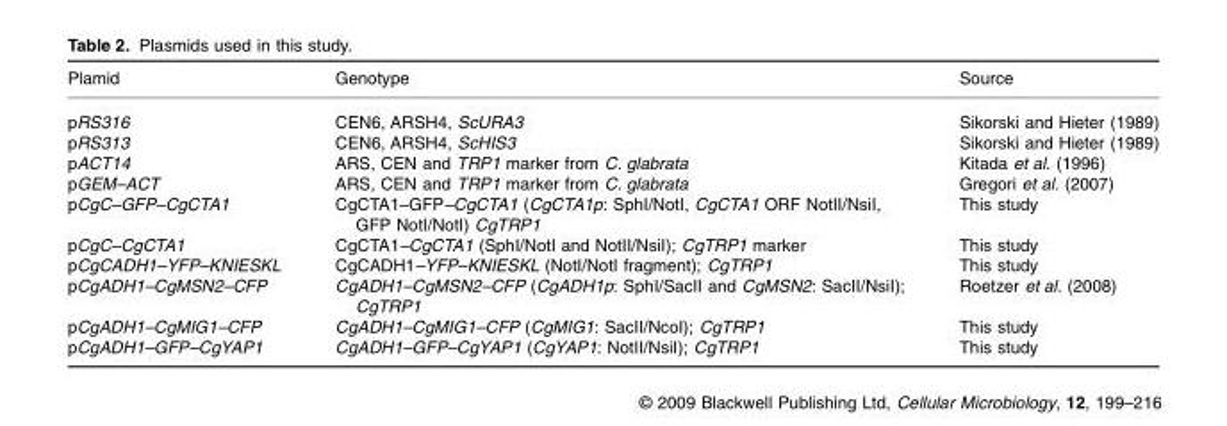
<table><thead><tr><td>Plamid</td><td>Genotype</td><td>Source</td></tr></thead><tbody><tr><td>pRS316</td><td>CEN6, ARSH4, ScURA3</td><td>Sikorski and Hieter (1989)</td></tr><tr><td>pRS313</td><td>CEN6, ARSH4, ScHIS3</td><td>Sikorski and Hieter (1989)</td></tr><tr><td>pACT14</td><td>ARS, CEN and TRP1 marker from C. glabrata</td><td>Kitada et al. (1996)</td></tr><tr><td>pGEM–ACT</td><td>ARS, CEN and TRP1 marker from C. glabrata</td><td>Gregori et al. (2007)</td></tr><tr><td>pCgC–GFP–CgCTA1</td><td>CgCTA1–GFP–CgCTA1 (CgCTA1p: SphI/NotI, CgCTA1 ORF NotII/NsiI, GFP NotI/NotI) CgTRP1</td><td>This study</td></tr><tr><td>pCgC–CgCTA1</td><td>CgCTA1–CgCTA1 (SphI/NotI and NotII/NsiI); CgTRP1 marker</td><td>This study</td></tr><tr><td>pCgCADH1–YFP–KNIESKL</td><td>CgCADH1–YFP–KNIESKL (NotI/NotI fragment); CgTRP1</td><td>This study</td></tr><tr><td>pCgADH1–CgMSN2–CFP</td><td>CgADH1–CgMSN2–CFP (CgADH1p: SphI/SacII and CgMSN2: SacII/NsiI); CgTRP1</td><td>Roetzer et al. (2008)</td></tr><tr><td>pCgADH1–CgMIG1–CFP</td><td>CgADH1–CgMIG1–CFP (CgMIG1: SacII/NcoI); CgTRP1</td><td>This study</td></tr><tr><td>pCgADH1–GFP–CgYAP1</td><td>CgADH1–GFP–CgYAP1 (CgYAP1: NotII/NsiI); CgTRP1</td><td>This study</td></tr></tbody></table>